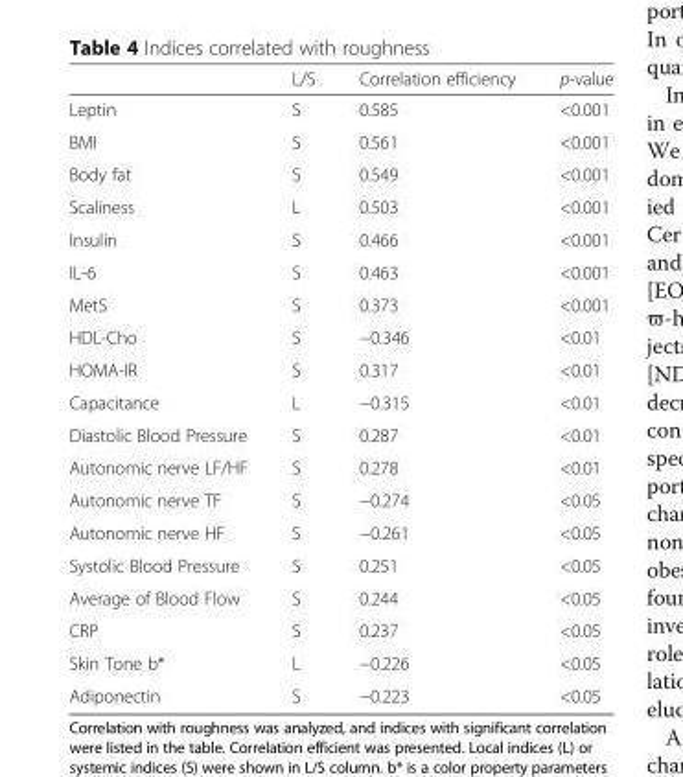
<table><thead><tr><td></td><td>L/S</td><td>Correlation efficiency</td><td>p-value</td></tr></thead><tbody><tr><td>Leptin</td><td>S</td><td>0.585</td><td>&lt;0.001</td></tr><tr><td>BMI</td><td>S</td><td>0.561</td><td>&lt;0.001</td></tr><tr><td>Body fat</td><td>S</td><td>0.549</td><td>&lt;0.001</td></tr><tr><td>Scaliness</td><td>L</td><td>0.503</td><td>&lt;0.001</td></tr><tr><td>Insulin</td><td>S</td><td>0.466</td><td>&lt;0.001</td></tr><tr><td>IL-6</td><td>S</td><td>0.463</td><td>&lt;0.001</td></tr><tr><td>MetS</td><td>S</td><td>0.373</td><td>&lt;0.001</td></tr><tr><td>HDL-Cho</td><td>S</td><td>−0.346</td><td>&lt;0.01</td></tr><tr><td>HOMA-IR</td><td>S</td><td>0.317</td><td>&lt;0.01</td></tr><tr><td>Capacitance</td><td>L</td><td>−0.315</td><td>&lt;0.01</td></tr><tr><td>Diastolic Blood Pressure</td><td>S</td><td>0.287</td><td>&lt;0.01</td></tr><tr><td>Autonomic nerve LF/HF</td><td>S</td><td>0.278</td><td>&lt;0.01</td></tr><tr><td>Autonomic nerve TF</td><td>S</td><td>−0.274</td><td>&lt;0.05</td></tr><tr><td>Autonomic nerve HF</td><td>S</td><td>−0.261</td><td>&lt;0.05</td></tr><tr><td>Systolic Blood Pressure</td><td>S</td><td>0.251</td><td>&lt;0.05</td></tr><tr><td>Average of Blood Flow</td><td>S</td><td>0.244</td><td>&lt;0.05</td></tr><tr><td>CRP</td><td>S</td><td>0.237</td><td>&lt;0.05</td></tr><tr><td>Skin Tone b*</td><td>L</td><td>−0.226</td><td>&lt;0.05</td></tr><tr><td>Adiponectin</td><td>S</td><td>−0.223</td><td>&lt;0.05</td></tr></tbody></table>